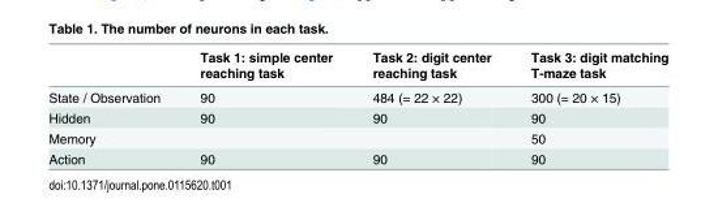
<table><thead><tr><td></td><td>Task 1: simple center reaching task</td><td>Task 2: digit center reaching task</td><td>Task 3: digit matching T-maze task</td></tr></thead><tbody><tr><td>State / Observation</td><td>90</td><td>484 (= 22 × 22)</td><td>300 (= 20 × 15)</td></tr><tr><td>Hidden</td><td>90</td><td>90</td><td>90</td></tr><tr><td>Memory</td><td></td><td></td><td>50</td></tr><tr><td>Action</td><td>90</td><td>90</td><td>90</td></tr></tbody></table>